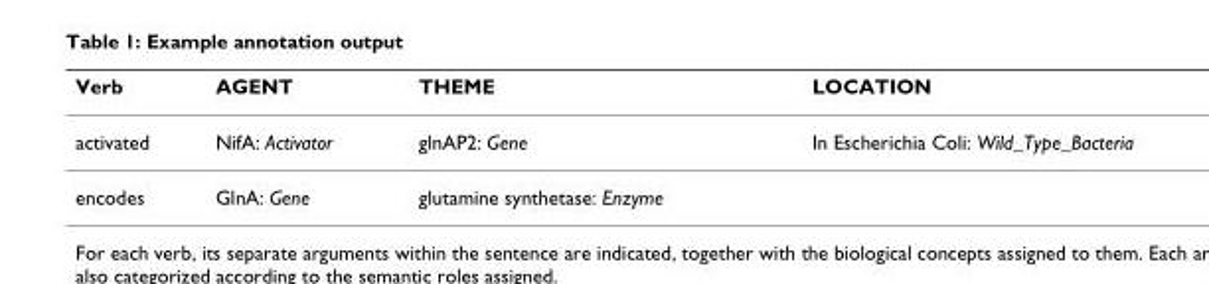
<table><thead><tr><td>Verb</td><td>AGENT</td><td>THEME</td><td>LOCATION</td></tr></thead><tbody><tr><td>activated</td><td>NifA: Activator</td><td>glnAP2: Gene</td><td>In Escherichia Coli: Wild_Type_Bacteria</td></tr><tr><td>encodes</td><td>GlnA: Gene</td><td>glutamine synthetase: Enzyme</td><td></td></tr></tbody></table>